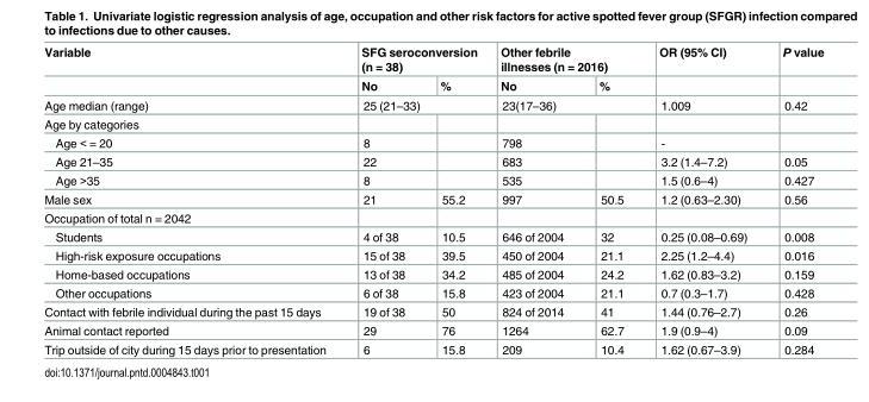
<table><thead><tr><td rowspan="2">Variable</td><td colspan="2">SFG seroconversion (n = 38)</td><td colspan="2">Other febrile illnesses (n = 2016)</td><td rowspan="2">OR (95% CI)</td><td rowspan="2">P value</td></tr><tr><td>No</td><td>%</td><td>No</td><td>%</td></tr></thead><tbody><tr><td>Age median (range)</td><td colspan="2">25 (21–33)</td><td colspan="2">23(17–36)</td><td>1.009</td><td>0.42</td></tr><tr><td colspan="7">Age by categories</td></tr><tr><td>Age &lt; = 20</td><td>8</td><td></td><td>798</td><td></td><td>-</td><td></td></tr><tr><td>Age 21–35</td><td>22</td><td></td><td>683</td><td></td><td>3.2 (1.4–7.2)</td><td>0.05</td></tr><tr><td>Age &gt;35</td><td>8</td><td></td><td>535</td><td></td><td>1.5 (0.6–4)</td><td>0.427</td></tr><tr><td>Male sex</td><td>21</td><td>55.2</td><td>997</td><td>50.5</td><td>1.2 (0.63–2.30)</td><td>0.56</td></tr><tr><td colspan="7">Occupation of total n = 2042</td></tr><tr><td>Students</td><td>4 of 38</td><td>10.5</td><td>646 of 2004</td><td>32</td><td>0.25 (0.08–0.69)</td><td>0.008</td></tr><tr><td>High-risk exposure occupations</td><td>15 of 38</td><td>39.5</td><td>450 of 2004</td><td>21.1</td><td>2.25 (1.2–4.4)</td><td>0.016</td></tr><tr><td>Home-based occupations</td><td>13 of 38</td><td>34.2</td><td>485 of 2004</td><td>24.2</td><td>1.62 (0.83–3.2)</td><td>0.159</td></tr><tr><td>Other occupations</td><td>6 of 38</td><td>15.8</td><td>423 of 2004</td><td>21.1</td><td>0.7 (0.3–1.7)</td><td>0.428</td></tr><tr><td>Contact with febrile individual during the past 15 days</td><td>19 of 38</td><td>50</td><td>824 of 2014</td><td>41</td><td>1.44 (0.76–2.7)</td><td>0.26</td></tr><tr><td>Animal contact reported</td><td>29</td><td>76</td><td>1264</td><td>62.7</td><td>1.9 (0.9–4)</td><td>0.09</td></tr><tr><td>Trip outside of city during 15 days prior to presentation</td><td>6</td><td>15.8</td><td>209</td><td>10.4</td><td>1.62 (0.67–3.9)</td><td>0.284</td></tr></tbody></table>